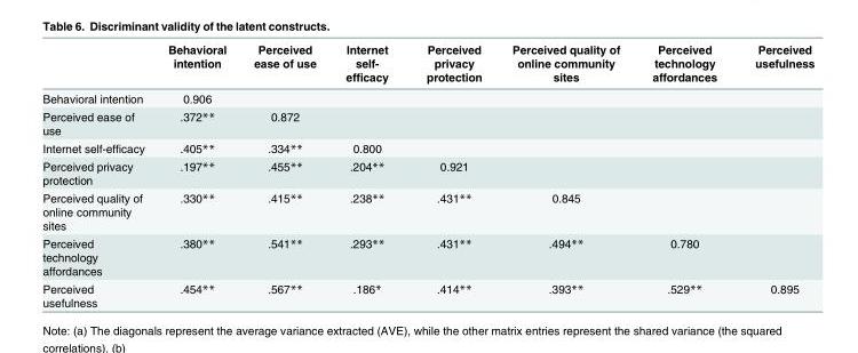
<table><thead><tr><td></td><td>Behavioral intention</td><td>Perceived ease of use</td><td>Internet self- efficacy</td><td>Perceived privacy protection</td><td>Perceived quality of online community sites</td><td>Perceived technology affordances</td><td>Perceived usefulness</td></tr></thead><tbody><tr><td>Behavioral intention</td><td>0.906</td><td></td><td></td><td></td><td></td><td></td><td></td></tr><tr><td>Perceived ease of use</td><td>.372**</td><td>0.872</td><td></td><td></td><td></td><td></td><td></td></tr><tr><td>Internet self-efficacy</td><td>.405**</td><td>.334**</td><td>0.800</td><td></td><td></td><td></td><td></td></tr><tr><td>Perceived privacy protection</td><td>.197**</td><td>.455**</td><td>.204**</td><td>0.921</td><td></td><td></td><td></td></tr><tr><td>Perceived quality of online community sites</td><td>.330**</td><td>.415**</td><td>.238**</td><td>.431**</td><td>0.845</td><td></td><td></td></tr><tr><td>Perceived technology affordances</td><td>.380**</td><td>.541**</td><td>.293**</td><td>.431**</td><td>.494**</td><td>0.780</td><td></td></tr><tr><td>Perceived usefulness</td><td>.454**</td><td>.567**</td><td>.186*</td><td>.414**</td><td>.393**</td><td>.529**</td><td>0.895</td></tr></tbody></table>